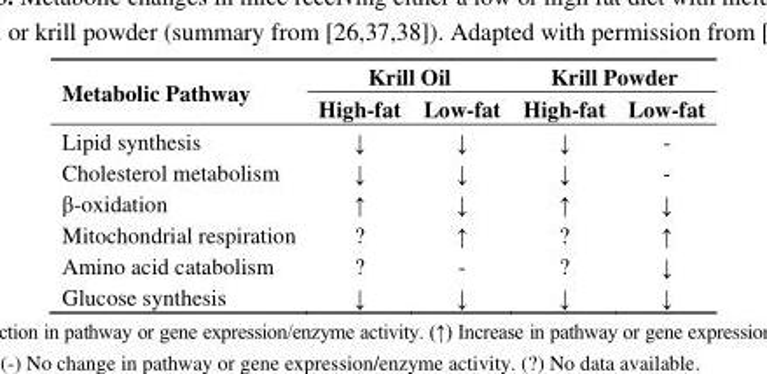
<table><thead><tr><td rowspan="2">Metabolic Pathway</td><td colspan="2">Krill Oil</td><td colspan="2">Krill Powder</td></tr><tr><td>High-fat</td><td>Low-fat</td><td>High-fat</td><td>Low-fat</td></tr></thead><tbody><tr><td>Lipid synthesis</td><td>↓</td><td>↓</td><td>↓</td><td>-</td></tr><tr><td>Cholesterol metabolism</td><td>↓</td><td>↓</td><td>↓</td><td>-</td></tr><tr><td>β-oxidation</td><td>↑</td><td>↓</td><td>↑</td><td>↓</td></tr><tr><td>Mitochondrial respiration</td><td>?</td><td>↑</td><td>?</td><td>↑</td></tr><tr><td>Amino acid catabolism</td><td>?</td><td>-</td><td>?</td><td>↓</td></tr><tr><td>Glucose synthesis</td><td>↓</td><td>↓</td><td>↓</td><td>↓</td></tr></tbody></table>